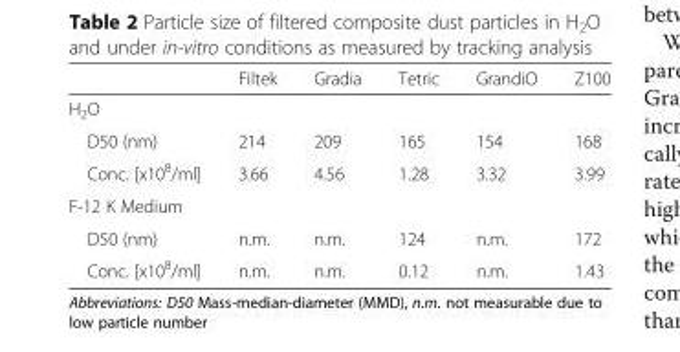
<table><thead><tr><td></td><td>Filtek</td><td>Gradia</td><td>Tetric</td><td>GrandiO</td><td>Z100</td></tr></thead><tbody><tr><td colspan="6">H<sub>2</sub>O</td></tr><tr><td>D50 (nm)</td><td>214</td><td>209</td><td>165</td><td>154</td><td>168</td></tr><tr><td>Conc. [x10<sup>8</sup>/ml]</td><td>3.66</td><td>4.56</td><td>1.28</td><td>3.32</td><td>3.99</td></tr><tr><td colspan="6">F-12 K Medium</td></tr><tr><td>D50 (nm)</td><td>n.m.</td><td>n.m.</td><td>124</td><td>n.m.</td><td>172</td></tr><tr><td>Conc. [x10<sup>8</sup>/ml]</td><td>n.m.</td><td>n.m.</td><td>0.12</td><td>n.m.</td><td>1.43</td></tr></tbody></table>